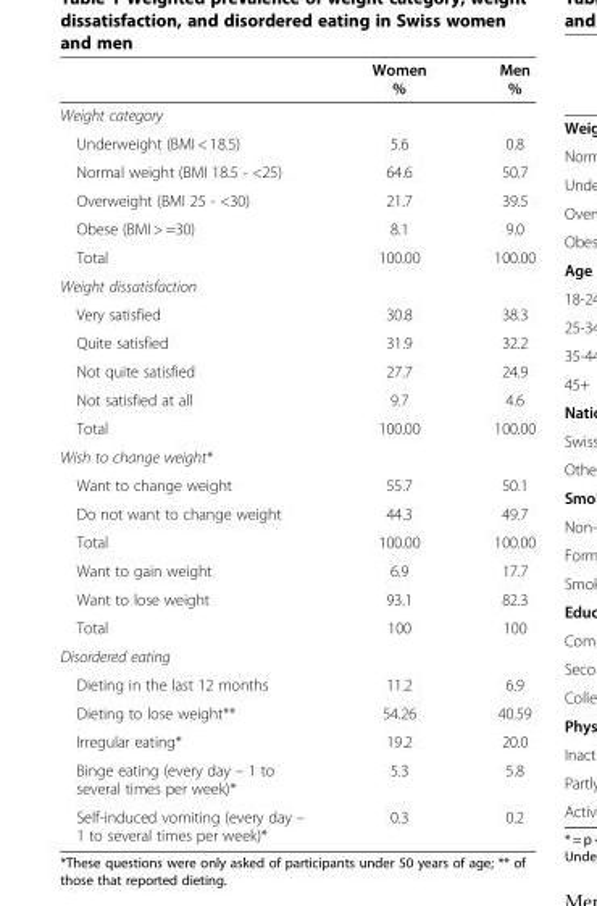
<table><thead><tr><td></td><td>Women %</td><td>Men %</td></tr></thead><tbody><tr><td colspan="3">Weight category</td></tr><tr><td>Underweight (BMI &lt; 18.5)</td><td>5.6</td><td>0.8</td></tr><tr><td>Normal weight (BMI 18.5 - &lt;25)</td><td>64.6</td><td>50.7</td></tr><tr><td>Overweight (BMI 25 - &lt;30)</td><td>21.7</td><td>39.5</td></tr><tr><td>Obese (BMI &gt; =30)</td><td>8.1</td><td>9.0</td></tr><tr><td>Total</td><td>100.00</td><td>100.00</td></tr><tr><td colspan="3">Weight dissatisfaction</td></tr><tr><td>Very satisfied</td><td>30.8</td><td>38.3</td></tr><tr><td>Quite satisfied</td><td>31.9</td><td>32.2</td></tr><tr><td>Not quite satisfied</td><td>27.7</td><td>24.9</td></tr><tr><td>Not satisfied at all</td><td>9.7</td><td>4.6</td></tr><tr><td>Total</td><td>100.00</td><td>100.00</td></tr><tr><td colspan="3">Wish to change weight*</td></tr><tr><td>Want to change weight</td><td>55.7</td><td>50.1</td></tr><tr><td>Do not want to change weight</td><td>44.3</td><td>49.7</td></tr><tr><td>Total</td><td>100.00</td><td>100.00</td></tr><tr><td>Want to gain weight</td><td>6.9</td><td>17.7</td></tr><tr><td>Want to lose weight</td><td>93.1</td><td>82.3</td></tr><tr><td>Total</td><td>100</td><td>100</td></tr><tr><td colspan="3">Disordered eating</td></tr><tr><td>Dieting in the last 12 months</td><td>11.2</td><td>6.9</td></tr><tr><td>Dieting to lose weight**</td><td>54.26</td><td>40.59</td></tr><tr><td>Irregular eating*</td><td>19.2</td><td>20.0</td></tr><tr><td>Binge eating (every day – 1 to several times per week)*</td><td>5.3</td><td>5.8</td></tr><tr><td>Self-induced vomiting (every day – 1 to several times per week)*</td><td>0.3</td><td>0.2</td></tr></tbody></table>